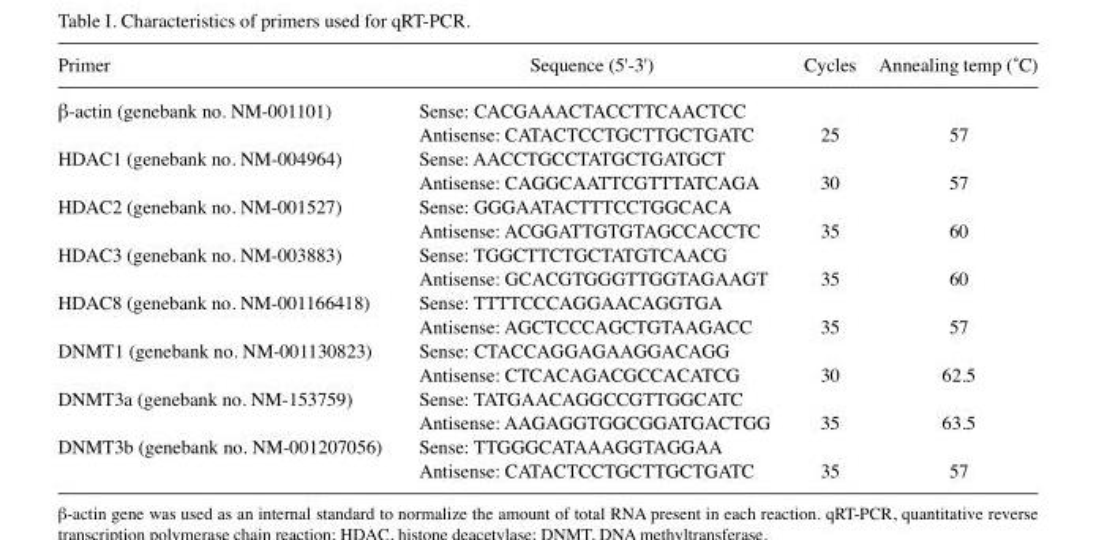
<table><thead><tr><td>Primer</td><td>Sequence (5&#x27;-3&#x27;)</td><td>Cycles</td><td>Annealing temp (˚C)</td></tr></thead><tbody><tr><td rowspan="2">β-actin (genebank no. NM-001101)</td><td>Sense: CACGAAACTACCTTCAACTCC</td><td></td><td></td></tr><tr><td>Antisense: CATACTCCTGCTTGCTGATC</td><td>25</td><td>57</td></tr><tr><td rowspan="2">HDAC1 (genebank no. NM-004964)</td><td>Sense: AACCTGCCTATGCTGATGCT</td><td></td><td></td></tr><tr><td>Antisense: CAGGCAATTCGTTTATCAGA</td><td>30</td><td>57</td></tr><tr><td rowspan="2">HDAC2 (genebank no. NM-001527)</td><td>Sense: GGGAATACTTTCCTGGCACA</td><td></td><td></td></tr><tr><td>Antisense: ACGGATTGTGTAGCCACCTC</td><td>35</td><td>60</td></tr><tr><td rowspan="2">HDAC3 (genebank no. NM-003883)</td><td>Sense: TGGCTTCTGCTATGTCAACG</td><td></td><td></td></tr><tr><td>Antisense: GCACGTGGGTTGGTAGAAGT</td><td>35</td><td>60</td></tr><tr><td rowspan="2">HDAC8 (genebank no. NM-001166418)</td><td>Sense: TTTTCCCAGGAACAGGTGA</td><td></td><td></td></tr><tr><td>Antisense: AGCTCCCAGCTGTAAGACC</td><td>35</td><td>57</td></tr><tr><td rowspan="2">DNMT1 (genebank no. NM-001130823)</td><td>Sense: CTACCAGGAGAAGGACAGG</td><td></td><td></td></tr><tr><td>Antisense: CTCACAGACGCCACATCG</td><td>30</td><td>62.5</td></tr><tr><td rowspan="2">DNMT3a (genebank no. NM-153759)</td><td>Sense: TATGAACAGGCCGTTGGCATC</td><td></td><td></td></tr><tr><td>Antisense: AAGAGGTGGCGGATGACTGG</td><td>35</td><td>63.5</td></tr><tr><td rowspan="2">DNMT3b (genebank no. NM-001207056)</td><td>Sense: TTGGGCATAAAGGTAGGAA</td><td></td><td></td></tr><tr><td>Antisense: CATACTCCTGCTTGCTGATC</td><td>35</td><td>57</td></tr></tbody></table>